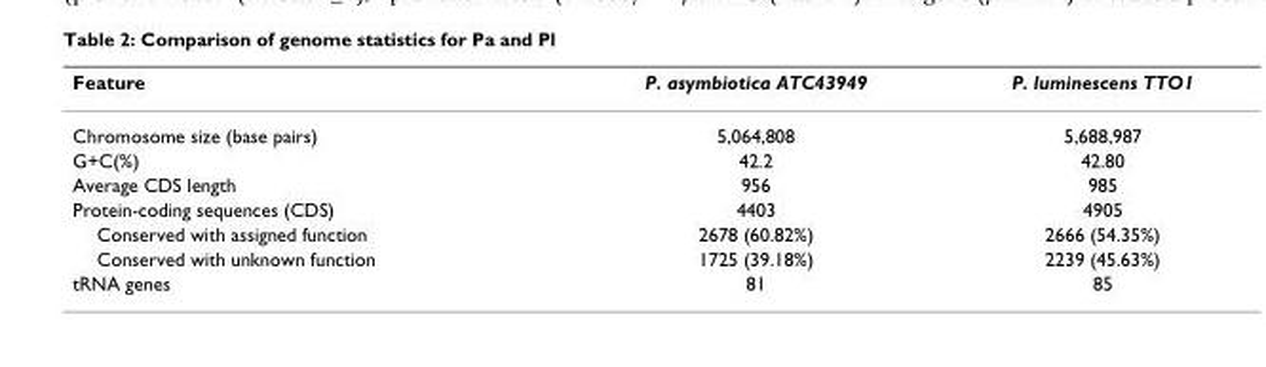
<table><thead><tr><td>Feature</td><td>P. asymbiotica ATC43949</td><td>P. luminescens TTO1</td></tr></thead><tbody><tr><td>Chromosome size (base pairs)</td><td>5,064,808</td><td>5,688,987</td></tr><tr><td>G+C(%)</td><td>42.2</td><td>42.80</td></tr><tr><td>Average CDS length</td><td>956</td><td>985</td></tr><tr><td>Protein-coding sequences (CDS)</td><td>4403</td><td>4905</td></tr><tr><td>Conserved with assigned function</td><td>2678 (60.82%)</td><td>2666 (54.35%)</td></tr><tr><td>Conserved with unknown function</td><td>1725 (39.18%)</td><td>2239 (45.63%)</td></tr><tr><td>tRNA genes</td><td>81</td><td>85</td></tr></tbody></table>